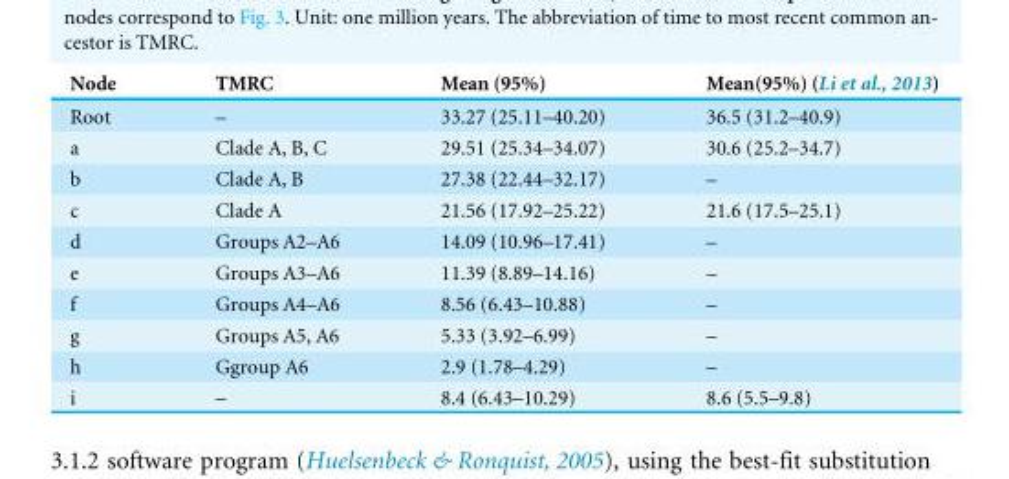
<table><thead><tr><td>Node</td><td>TMRC</td><td>Mean (95%)</td><td>Mean(95%) (Li et al., 2013)</td></tr></thead><tbody><tr><td>Root</td><td>–</td><td>33.27 (25.11–40.20)</td><td>36.5 (31.2–40.9)</td></tr><tr><td>a</td><td>Clade A, B, C</td><td>29.51 (25.34–34.07)</td><td>30.6 (25.2–34.7)</td></tr><tr><td>b</td><td>Clade A, B</td><td>27.38 (22.44–32.17)</td><td>–</td></tr><tr><td>c</td><td>Clade A</td><td>21.56 (17.92–25.22)</td><td>21.6 (17.5–25.1)</td></tr><tr><td>d</td><td>Groups A2–A6</td><td>14.09 (10.96–17.41)</td><td>–</td></tr><tr><td>e</td><td>Groups A3–A6</td><td>11.39 (8.89–14.16)</td><td>–</td></tr><tr><td>f</td><td>Groups A4–A6</td><td>8.56 (6.43–10.88)</td><td>–</td></tr><tr><td>g</td><td>Groups A5, A6</td><td>5.33 (3.92–6.99)</td><td>–</td></tr><tr><td>h</td><td>Ggroup A6</td><td>2.9 (1.78–4.29)</td><td>–</td></tr><tr><td>i</td><td>–</td><td>8.4 (6.43–10.29)</td><td>8.6 (5.5–9.8)</td></tr></tbody></table>